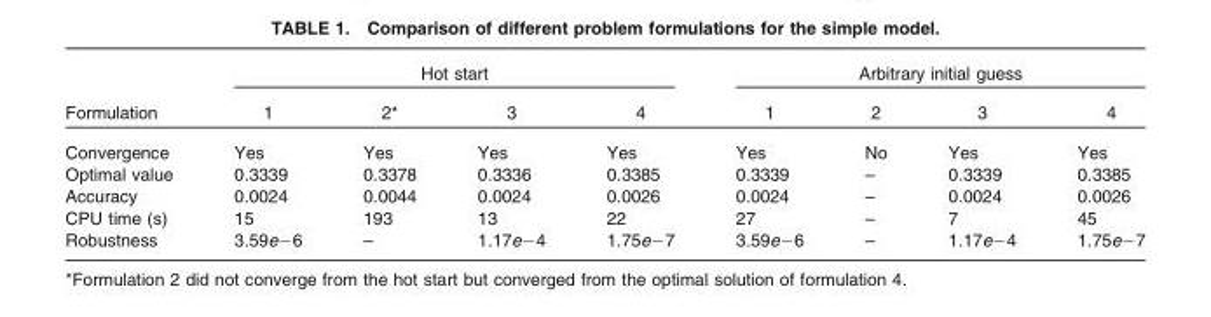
<table><thead><tr><td rowspan="2">Formulation</td><td colspan="4">Hot start</td><td colspan="4">Arbitrary initial guess</td></tr><tr><td>1</td><td>2*</td><td>3</td><td>4</td><td>1</td><td>2</td><td>3</td><td>4</td></tr></thead><tbody><tr><td>Convergence</td><td>Yes</td><td>Yes</td><td>Yes</td><td>Yes</td><td>Yes</td><td>No</td><td>Yes</td><td>Yes</td></tr><tr><td>Optimal value</td><td>0.3339</td><td>0.3378</td><td>0.3336</td><td>0.3385</td><td>0.3339</td><td>–</td><td>0.3339</td><td>0.3385</td></tr><tr><td>Accuracy</td><td>0.0024</td><td>0.0044</td><td>0.0024</td><td>0.0026</td><td>0.0024</td><td>–</td><td>0.0024</td><td>0.0026</td></tr><tr><td>CPU time (s)</td><td>15</td><td>193</td><td>13</td><td>22</td><td>27</td><td>–</td><td>7</td><td>45</td></tr><tr><td>Robustness</td><td>3.59e−6</td><td>–</td><td>1.17e−4</td><td>1.75e−7</td><td>3.59e−6</td><td>–</td><td>1.17e−4</td><td>1.75e−7</td></tr></tbody></table>